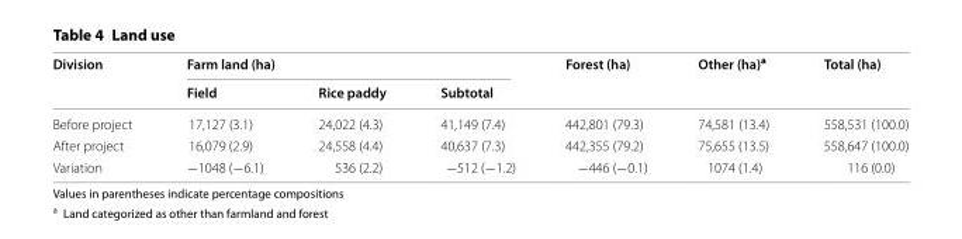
<table><thead><tr><td rowspan="2">Division</td><td colspan="3">Farm land (ha)</td><td rowspan="2">Forest (ha)</td><td rowspan="2">Other (ha)<sup>a</sup></td><td rowspan="2">Total (ha)</td></tr><tr><td>Field</td><td>Rice paddy</td><td>Subtotal</td></tr></thead><tbody><tr><td>Before project</td><td>17,127 (3.1)</td><td>24,022 (4.3)</td><td>41,149 (7.4)</td><td>442,801 (79.3)</td><td>74,581 (13.4)</td><td>558,531 (100.0)</td></tr><tr><td>After project</td><td>16,079 (2.9)</td><td>24,558 (4.4)</td><td>40,637 (7.3)</td><td>442,355 (79.2)</td><td>75,655 (13.5)</td><td>558,647 (100.0)</td></tr><tr><td>Variation</td><td>−1048 (−6.1)</td><td>536 (2.2)</td><td>−512 (−1.2)</td><td>−446 (−0.1)</td><td>1074 (1.4)</td><td>116 (0.0)</td></tr></tbody></table>